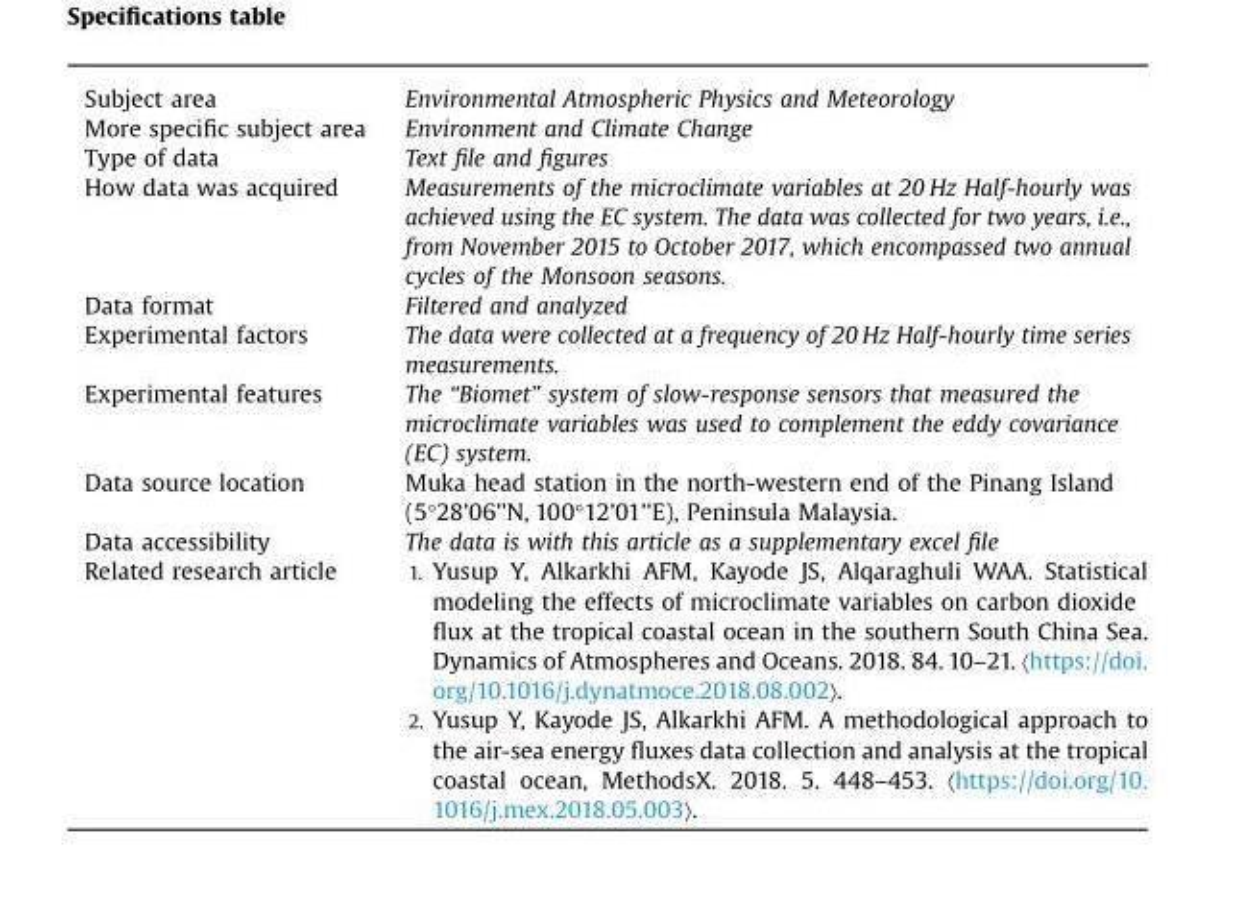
<table><tbody><tr><td>Subject area</td><td>Environmental Atmospheric Physics and Meteorology</td></tr><tr><td>More specific subject area</td><td>Environment and Climate Change</td></tr><tr><td>Type of data</td><td>Text file and figures</td></tr><tr><td>How data was acquired</td><td>Measurements of the microclimate variables at 20 Hz Half-hourly was achieved using the EC system. The data was collected for two years, i.e., from November 2015 to October 2017, which encompassed two annual cycles of the Monsoon seasons.</td></tr><tr><td>Data format</td><td>Filtered and analyzed</td></tr><tr><td>Experimental factors</td><td>The data were collected at a frequency of 20 Hz Half-hourly time series measurements.</td></tr><tr><td>Experimental features</td><td>The “Biomet” system of slow-response sensors that measured the microclimate variables was used to complement the eddy covariance (EC) system.</td></tr><tr><td>Data source location</td><td>Muka head station in the north-western end of the Pinang Island (5°28’06’’N, 100°12’01’’E), Peninsula Malaysia.</td></tr><tr><td>Data accessibility</td><td>The data is with this article as a supplementary excel file</td></tr><tr><td>Related research article</td><td>1. Yusup Y, Alkarkhi AFM, Kayode JS, Alqaraghuli WAA. Statistical modeling the effects of microclimate variables on carbon dioxide flux at the tropical coastal ocean in the southern South China Sea. Dynamics of Atmospheres and Oceans. 2018. 84. 10–21. 〈https://doi. org/10.1016/j.dynatmoce.2018.08.002〉. 2. Yusup Y, Kayode JS, Alkarkhi AFM. A methodological approach to the air-sea energy fluxes data collection and analysis at the tropical coastal ocean, MethodsX. 2018. 5. 448–453. 〈https://doi.org/10. 1016/j.mex.2018.05.003〉.</td></tr></tbody></table>